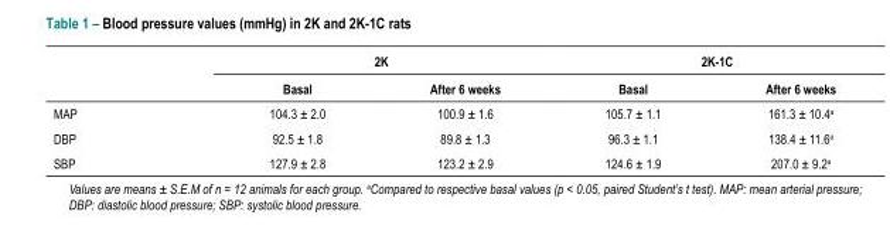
<table><thead><tr><td rowspan="2"></td><td colspan="2">2K</td><td colspan="2">2K-1C</td></tr><tr><td>Basal</td><td>After 6 weeks</td><td>Basal</td><td>After 6 weeks</td></tr></thead><tbody><tr><td>MAP</td><td>104.3 ± 2.0</td><td>100.9 ± 1.6</td><td>105.7 ± 1.1</td><td>161.3 ± 10.4<sup>a</sup></td></tr><tr><td>DBP</td><td>92.5 ± 1.8</td><td>89.8 ± 1.3</td><td>96.3 ± 1.1</td><td>138.4 ± 11.6<sup>a</sup></td></tr><tr><td>SBP</td><td>127.9 ± 2.8</td><td>123.2 ± 2.9</td><td>124.6 ± 1.9</td><td>207.0 ± 9.2<sup>a</sup></td></tr></tbody></table>